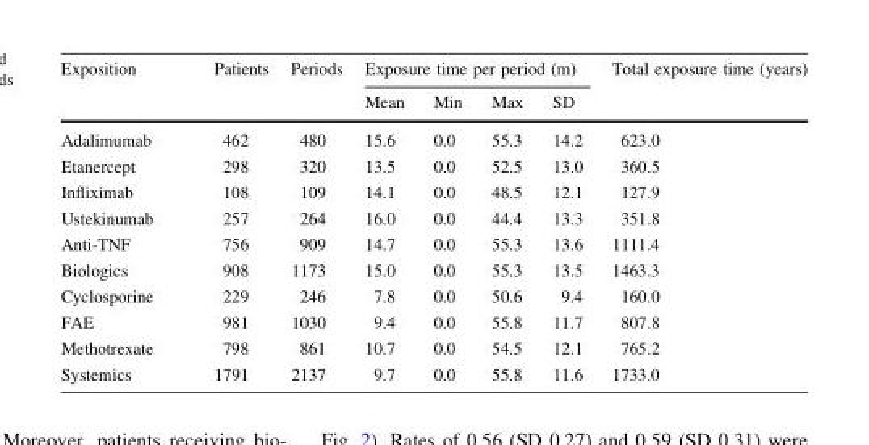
<table><thead><tr><td rowspan="2">Exposition</td><td rowspan="2">Patients</td><td rowspan="2">Periods</td><td colspan="4">Exposure time per period (m)</td><td rowspan="2">Total exposure time (years)</td></tr><tr><td>Mean</td><td>Min</td><td>Max</td><td>SD</td></tr></thead><tbody><tr><td>Adalimumab</td><td>462</td><td>480</td><td>15.6</td><td>0.0</td><td>55.3</td><td>14.2</td><td>623.0</td></tr><tr><td>Etanercept</td><td>298</td><td>320</td><td>13.5</td><td>0.0</td><td>52.5</td><td>13.0</td><td>360.5</td></tr><tr><td>Infliximab</td><td>108</td><td>109</td><td>14.1</td><td>0.0</td><td>48.5</td><td>12.1</td><td>127.9</td></tr><tr><td>Ustekinumab</td><td>257</td><td>264</td><td>16.0</td><td>0.0</td><td>44.4</td><td>13.3</td><td>351.8</td></tr><tr><td>Anti-TNF</td><td>756</td><td>909</td><td>14.7</td><td>0.0</td><td>55.3</td><td>13.6</td><td>1111.4</td></tr><tr><td>Biologics</td><td>908</td><td>1173</td><td>15.0</td><td>0.0</td><td>55.3</td><td>13.5</td><td>1463.3</td></tr><tr><td>Cyclosporine</td><td>229</td><td>246</td><td>7.8</td><td>0.0</td><td>50.6</td><td>9.4</td><td>160.0</td></tr><tr><td>FAE</td><td>981</td><td>1030</td><td>9.4</td><td>0.0</td><td>55.8</td><td>11.7</td><td>807.8</td></tr><tr><td>Methotrexate</td><td>798</td><td>861</td><td>10.7</td><td>0.0</td><td>54.5</td><td>12.1</td><td>765.2</td></tr><tr><td>Systemics</td><td>1791</td><td>2137</td><td>9.7</td><td>0.0</td><td>55.8</td><td>11.6</td><td>1733.0</td></tr></tbody></table>